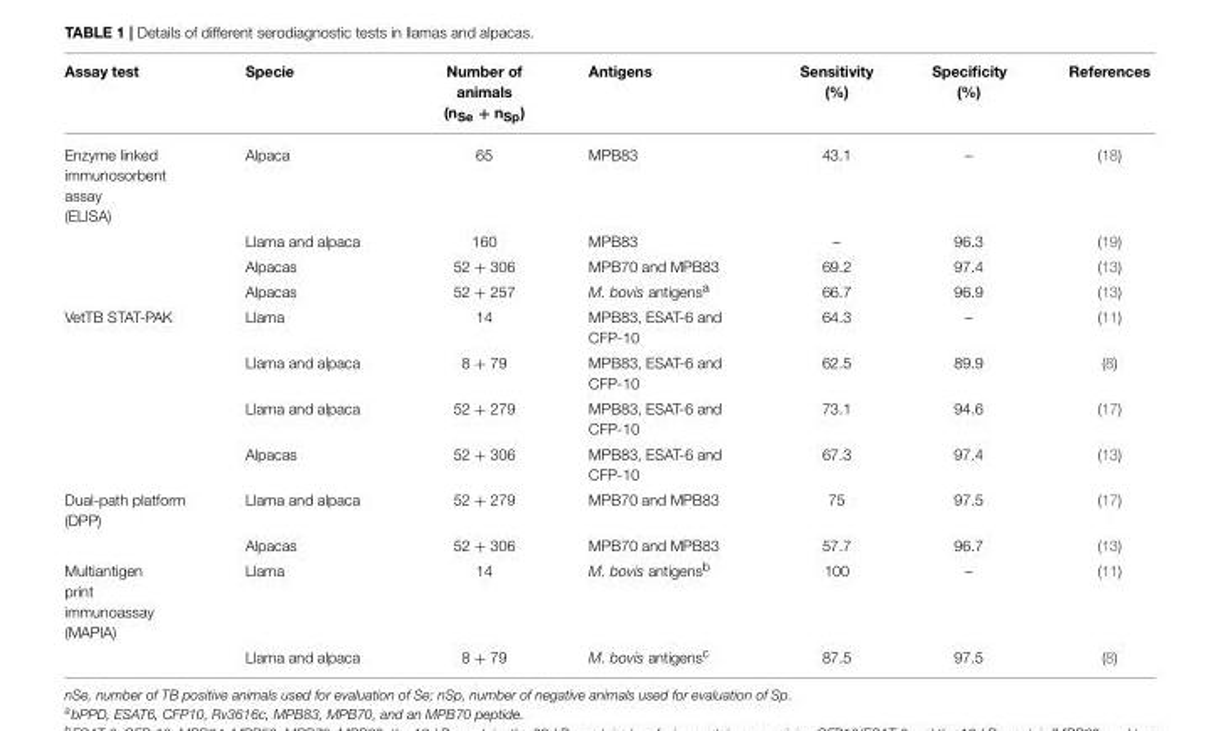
<table><thead><tr><td>Assay test</td><td>Specie</td><td>Number of animals (n<sub>Se</sub> + n<sub>Sp</sub>)</td><td>Antigens</td><td>Sensitivity (%)</td><td>Specificity (%)</td><td>References</td></tr></thead><tbody><tr><td rowspan="4">Enzyme linked immunosorbent assay (ELISA)</td><td>Alpaca</td><td>65</td><td>MPB83</td><td>43.1</td><td>–</td><td>(18)</td></tr><tr><td>Llama and alpaca</td><td>160</td><td>MPB83</td><td>–</td><td>96.3</td><td>(19)</td></tr><tr><td>Alpacas</td><td>52 + 306</td><td>MPB70 and MPB83</td><td>69.2</td><td>97.4</td><td>(13)</td></tr><tr><td>Alpacas</td><td>52 + 257</td><td>M. bovis antigens<sup>a</sup></td><td>66.7</td><td>96.9</td><td>(13)</td></tr><tr><td rowspan="4">VetTB STAT-PAK</td><td>Llama</td><td>14</td><td>MPB83, ESAT-6 and CFP-10</td><td>64.3</td><td>–</td><td>(11)</td></tr><tr><td>Llama and alpaca</td><td>8 + 79</td><td>MPB83, ESAT-6 and CFP-10</td><td>62.5</td><td>89.9</td><td>(8)</td></tr><tr><td>Llama and alpaca</td><td>52 + 279</td><td>MPB83, ESAT-6 and CFP-10</td><td>73.1</td><td>94.6</td><td>(17)</td></tr><tr><td>Alpacas</td><td>52 + 306</td><td>MPB83, ESAT-6 and CFP-10</td><td>67.3</td><td>97.4</td><td>(13)</td></tr><tr><td rowspan="2">Dual-path platform (DPP)</td><td>Llama and alpaca</td><td>52 + 279</td><td>MPB70 and MPB83</td><td>75</td><td>97.5</td><td>(17)</td></tr><tr><td>Alpacas</td><td>52 + 306</td><td>MPB70 and MPB83</td><td>57.7</td><td>96.7</td><td>(13)</td></tr><tr><td rowspan="2">Multiantigen print immunoassay (MAPIA)</td><td>Llama</td><td>14</td><td>M. bovis antigens<sup>b</sup></td><td>100</td><td>–</td><td>(11)</td></tr><tr><td>Llama and alpaca</td><td>8 + 79</td><td>M. bovis antigens<sup>c</sup></td><td>87.5</td><td>97.5</td><td>(8)</td></tr></tbody></table>